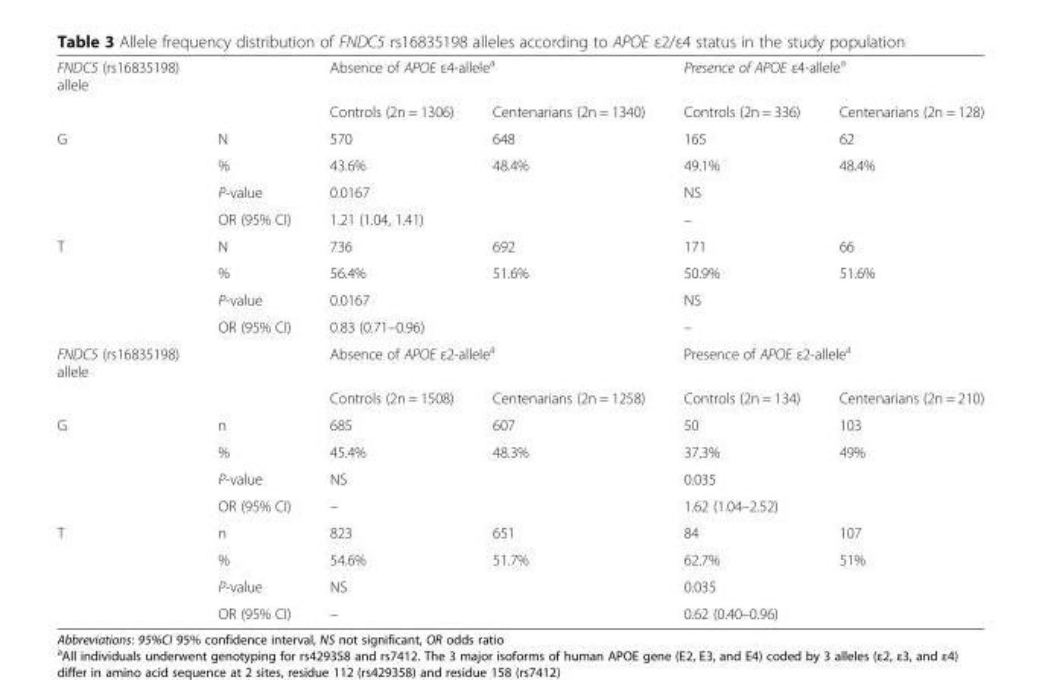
<table><tbody><tr><td rowspan="2">FNDC5 (rs16835198) allele</td><td></td><td colspan="2">Absence of APOE ε4-allele<sup>a</sup></td><td colspan="2">Presence of APOE ε4-allele<sup>a</sup></td></tr><tr><td></td><td>Controls (2n = 1306)</td><td>Centenarians (2n = 1340)</td><td>Controls (2n = 336)</td><td>Centenarians (2n = 128)</td></tr><tr><td rowspan="4">G</td><td>N</td><td>570</td><td>648</td><td>165</td><td>62</td></tr><tr><td>%</td><td>43.6%</td><td>48.4%</td><td>49.1%</td><td>48.4%</td></tr><tr><td>P-value</td><td colspan="2">0.0167</td><td colspan="2">NS</td></tr><tr><td>OR (95% CI)</td><td colspan="2">1.21 (1.04, 1.41)</td><td colspan="2">–</td></tr><tr><td rowspan="4">T</td><td>N</td><td>736</td><td>692</td><td>171</td><td>66</td></tr><tr><td>%</td><td>56.4%</td><td>51.6%</td><td>50.9%</td><td>51.6%</td></tr><tr><td>P-value</td><td colspan="2">0.0167</td><td colspan="2">NS</td></tr><tr><td>OR (95% CI)</td><td colspan="2">0.83 (0.71–0.96)</td><td colspan="2">–</td></tr><tr><td rowspan="2">FNDC5 (rs16835198) allele</td><td></td><td colspan="2">Absence of APOE ε2-allele<sup>a</sup></td><td colspan="2">Presence of APOE ε2-allele<sup>a</sup></td></tr><tr><td></td><td>Controls (2n = 1508)</td><td>Centenarians (2n = 1258)</td><td>Controls (2n = 134)</td><td>Centenarians (2n = 210)</td></tr><tr><td rowspan="4">G</td><td>n</td><td>685</td><td>607</td><td>50</td><td>103</td></tr><tr><td>%</td><td>45.4%</td><td>48.3%</td><td>37.3%</td><td>49%</td></tr><tr><td>P-value</td><td colspan="2">NS</td><td colspan="2">0.035</td></tr><tr><td>OR (95% CI)</td><td colspan="2">–</td><td colspan="2">1.62 (1.04–2.52)</td></tr><tr><td rowspan="4">T</td><td>n</td><td>823</td><td>651</td><td>84</td><td>107</td></tr><tr><td>%</td><td>54.6%</td><td>51.7%</td><td>62.7%</td><td>51%</td></tr><tr><td>P-value</td><td colspan="2">NS</td><td colspan="2">0.035</td></tr><tr><td>OR (95% CI)</td><td colspan="2">–</td><td colspan="2">0.62 (0.40–0.96)</td></tr></tbody></table>